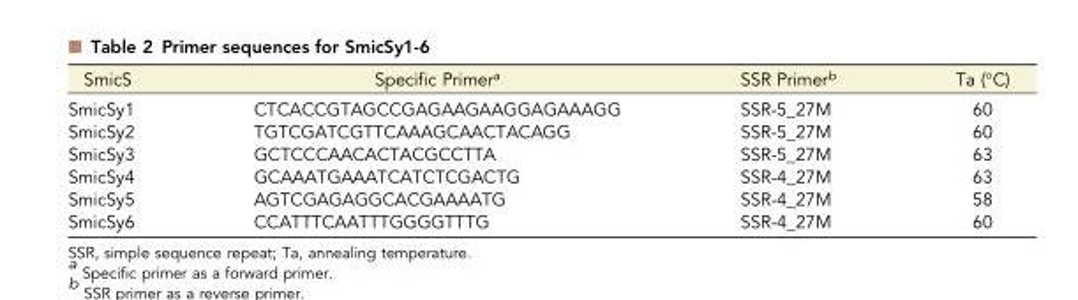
<table><thead><tr><td>SmicS</td><td>Specific Primer<sup>a</sup></td><td>SSR Primer<sup>b</sup></td><td>Ta (°C)</td></tr></thead><tbody><tr><td>SmicSy1</td><td>CTCACCGTAGCCGAGAAGAAGGAGAAAGG</td><td>SSR-5_27M</td><td>60</td></tr><tr><td>SmicSy2</td><td>TGTCGATCGTTCAAAGCAACTACAGG</td><td>SSR-5_27M</td><td>60</td></tr><tr><td>SmicSy3</td><td>GCTCCCAACACTACGCCTTA</td><td>SSR-5_27M</td><td>63</td></tr><tr><td>SmicSy4</td><td>GCAAATGAAATCATCTCGACTG</td><td>SSR-4_27M</td><td>63</td></tr><tr><td>SmicSy5</td><td>AGTCGAGAGGCACGAAAATG</td><td>SSR-4_27M</td><td>58</td></tr><tr><td>SmicSy6</td><td>CCATTTCAATTTGGGGTTTG</td><td>SSR-4_27M</td><td>60</td></tr></tbody></table>